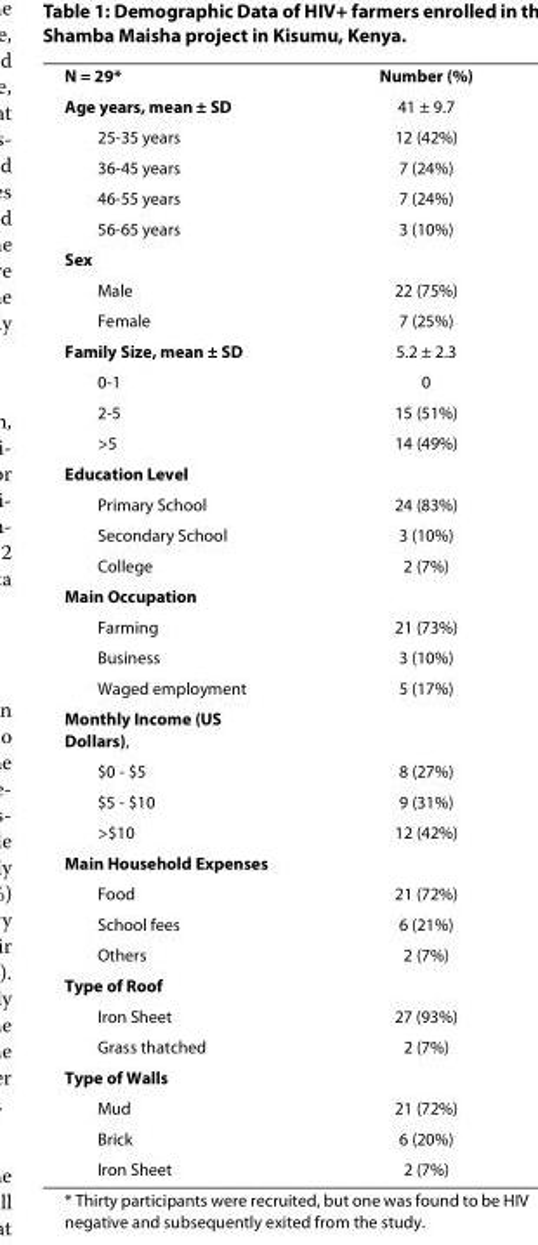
<table><tbody><tr><td>N = 29*</td><td>Number (%)</td></tr><tr><td>Age years, mean ± SD</td><td>41 ± 9.7</td></tr><tr><td>25-35 years</td><td>12 (42%)</td></tr><tr><td>36-45 years</td><td>7 (24%)</td></tr><tr><td>46-55 years</td><td>7 (24%)</td></tr><tr><td>56-65 years</td><td>3 (10%)</td></tr><tr><td colspan="2">Sex</td></tr><tr><td>Male</td><td>22 (75%)</td></tr><tr><td>Female</td><td>7 (25%)</td></tr><tr><td>Family Size, mean ± SD</td><td>5.2 ± 2.3</td></tr><tr><td>0-1</td><td>0</td></tr><tr><td>2-5</td><td>15 (51%)</td></tr><tr><td>&gt;5</td><td>14 (49%)</td></tr><tr><td colspan="2">Education Level</td></tr><tr><td>Primary School</td><td>24 (83%)</td></tr><tr><td>Secondary School</td><td>3 (10%)</td></tr><tr><td>College</td><td>2 (7%)</td></tr><tr><td colspan="2">Main Occupation</td></tr><tr><td>Farming</td><td>21 (73%)</td></tr><tr><td>Business</td><td>3 (10%)</td></tr><tr><td>Waged employment</td><td>5 (17%)</td></tr><tr><td colspan="2">Monthly Income (US Dollars),</td></tr><tr><td>$0 - $5</td><td>8 (27%)</td></tr><tr><td>$5 - $10</td><td>9 (31%)</td></tr><tr><td>&gt;$10</td><td>12 (42%)</td></tr><tr><td colspan="2">Main Household Expenses</td></tr><tr><td>Food</td><td>21 (72%)</td></tr><tr><td>School fees</td><td>6 (21%)</td></tr><tr><td>Others</td><td>2 (7%)</td></tr><tr><td colspan="2">Type of Roof</td></tr><tr><td>Iron Sheet</td><td>27 (93%)</td></tr><tr><td>Grass thatched</td><td>2 (7%)</td></tr><tr><td colspan="2">Type of Walls</td></tr><tr><td>Mud</td><td>21 (72%)</td></tr><tr><td>Brick</td><td>6 (20%)</td></tr><tr><td>Iron Sheet</td><td>2 (7%)</td></tr></tbody></table>